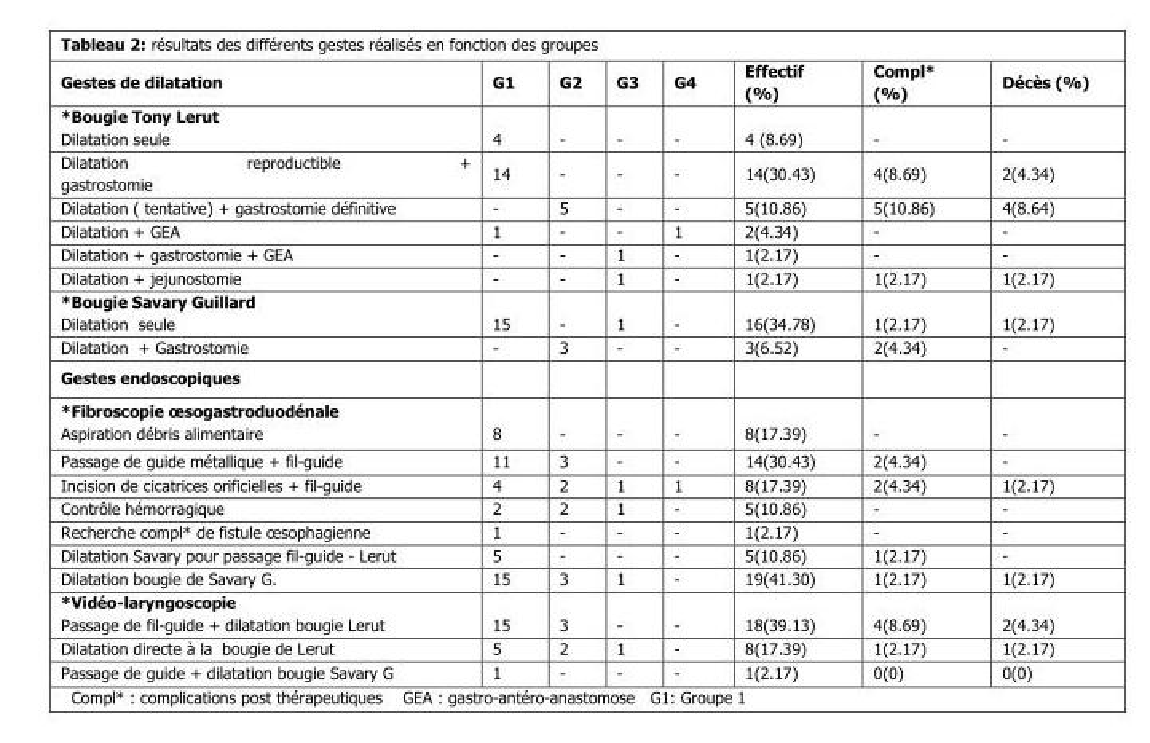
<table><thead><tr><td>Gestes de dilatation</td><td>G1</td><td>G2</td><td>G3</td><td>G4</td><td>Effectif (%)</td><td>Compl* (%)</td><td>Décès (%)</td></tr></thead><tbody><tr><td>*Bougie Tony Lerut Dilatation seule</td><td>4</td><td>-</td><td>-</td><td>-</td><td>4 (8.69)</td><td>-</td><td>-</td></tr><tr><td>Dilatation reproductible + gastrostomie</td><td>14</td><td>-</td><td>-</td><td>-</td><td>14(30.43)</td><td>4(8.69)</td><td>2(4.34)</td></tr><tr><td>Dilatation ( tentative) + gastrostomie définitive</td><td>-</td><td>5</td><td>-</td><td>-</td><td>5(10.86)</td><td>5(10.86)</td><td>4(8.64)</td></tr><tr><td>Dilatation + GEA</td><td>1</td><td>-</td><td>-</td><td>1</td><td>2(4.34)</td><td>-</td><td>-</td></tr><tr><td>Dilatation + gastrostomie + GEA</td><td>-</td><td>-</td><td>1</td><td>-</td><td>1(2.17)</td><td>-</td><td>-</td></tr><tr><td>Dilatation + jejunostomie</td><td>-</td><td>-</td><td>1</td><td>-</td><td>1(2.17)</td><td>1(2.17)</td><td>1(2.17)</td></tr><tr><td>*Bougie Savary Guillard Dilatation seule</td><td>15</td><td>-</td><td>1</td><td>-</td><td>16(34.78)</td><td>1(2.17)</td><td>1(2.17)</td></tr><tr><td>Dilatation + Gastrostomie</td><td>-</td><td>3</td><td>-</td><td>-</td><td>3(6.52)</td><td>2(4.34)</td><td>-</td></tr><tr><td colspan="8">Gestes endoscopiques</td></tr><tr><td>*Fibroscopie œsogastroduodénale Aspiration débris alimentaire</td><td>8</td><td>-</td><td>-</td><td>-</td><td>8(17.39)</td><td>-</td><td>-</td></tr><tr><td>Passage de guide métallique + fil-guide</td><td>11</td><td>3</td><td>-</td><td>-</td><td>14(30.43)</td><td>2(4.34)</td><td>-</td></tr><tr><td>Incision de cicatrices orificielles + fil-guide</td><td>4</td><td>2</td><td>1</td><td>1</td><td>8(17.39)</td><td>2(4.34)</td><td>1(2.17)</td></tr><tr><td>Contrôle hémorragique</td><td>2</td><td>2</td><td>1</td><td>-</td><td>5(10.86)</td><td>-</td><td>-</td></tr><tr><td>Recherche compl* de fistule œsophagienne</td><td>1</td><td>-</td><td>-</td><td>-</td><td>1(2.17)</td><td>-</td><td>-</td></tr><tr><td>Dilatation Savary pour passage fil-guide - Lerut</td><td>5</td><td>-</td><td>-</td><td>-</td><td>5(10.86)</td><td>1(2.17)</td><td>-</td></tr><tr><td>Dilatation bougie de Savary G.</td><td>15</td><td>3</td><td>1</td><td>-</td><td>19(41.30)</td><td>1(2.17)</td><td>1(2.17)</td></tr><tr><td>*Vidéo-laryngoscopie Passage de fil-guide + dilatation bougie Lerut</td><td>15</td><td>3</td><td>-</td><td>-</td><td>18(39.13)</td><td>4(8.69)</td><td>2(4.34)</td></tr><tr><td>Dilatation directe à la bougie de Lerut</td><td>5</td><td>2</td><td>1</td><td>-</td><td>8(17.39)</td><td>1(2.17)</td><td>1(2.17)</td></tr><tr><td>Passage de guide + dilatation bougie Savary G</td><td>1</td><td>-</td><td>-</td><td>-</td><td>1(2.17)</td><td>0(0)</td><td>0(0)</td></tr></tbody></table>